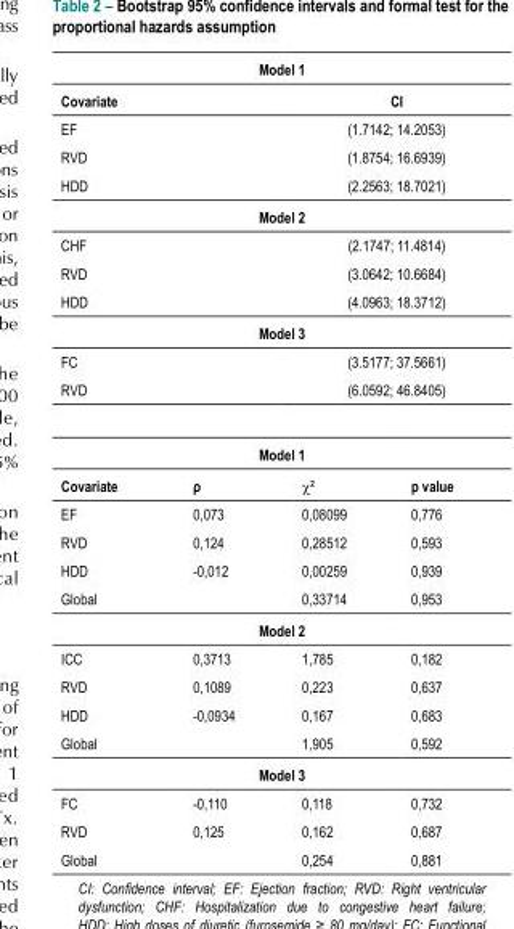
<table><thead><tr><td colspan="4">Model 1</td></tr><tr><td>Covariate</td><td></td><td></td><td>CI</td></tr></thead><tbody><tr><td>EF</td><td></td><td></td><td>(1.7142; 14.2053)</td></tr><tr><td>RVD</td><td></td><td></td><td>(1.8754; 16.6939)</td></tr><tr><td>HDD</td><td></td><td></td><td>(2.2563; 18.7021)</td></tr><tr><td colspan="4">Model 2</td></tr><tr><td>CHF</td><td></td><td></td><td>(2.1747; 11.4814)</td></tr><tr><td>RVD</td><td></td><td></td><td>(3.0642; 10.6684)</td></tr><tr><td>HDD</td><td></td><td></td><td>(4.0963; 18.3712)</td></tr><tr><td colspan="4">Model 3</td></tr><tr><td>FC</td><td></td><td></td><td>(3.5177; 37.5661)</td></tr><tr><td>RVD</td><td></td><td></td><td>(6.0592; 46.8405)</td></tr><tr><td colspan="4">Model 1</td></tr><tr><td>Covariate</td><td>ρ</td><td>χ<sup>2</sup></td><td>p value</td></tr><tr><td>EF</td><td>0,073</td><td>0,08099</td><td>0,776</td></tr><tr><td>RVD</td><td>0,124</td><td>0,28512</td><td>0,593</td></tr><tr><td>HDD</td><td>-0,012</td><td>0,00259</td><td>0,939</td></tr><tr><td>Global</td><td></td><td>0,33714</td><td>0,953</td></tr><tr><td colspan="4">Model 2</td></tr><tr><td>ICC</td><td>0,3713</td><td>1,785</td><td>0,182</td></tr><tr><td>RVD</td><td>0,1089</td><td>0,223</td><td>0,637</td></tr><tr><td>HDD</td><td>-0,0934</td><td>0,167</td><td>0,683</td></tr><tr><td>Global</td><td></td><td>1,905</td><td>0,592</td></tr><tr><td colspan="4">Model 3</td></tr><tr><td>FC</td><td>-0,110</td><td>0,118</td><td>0,732</td></tr><tr><td>RVD</td><td>0,125</td><td>0,162</td><td>0,687</td></tr><tr><td>Global</td><td></td><td>0,254</td><td>0,881</td></tr></tbody></table>